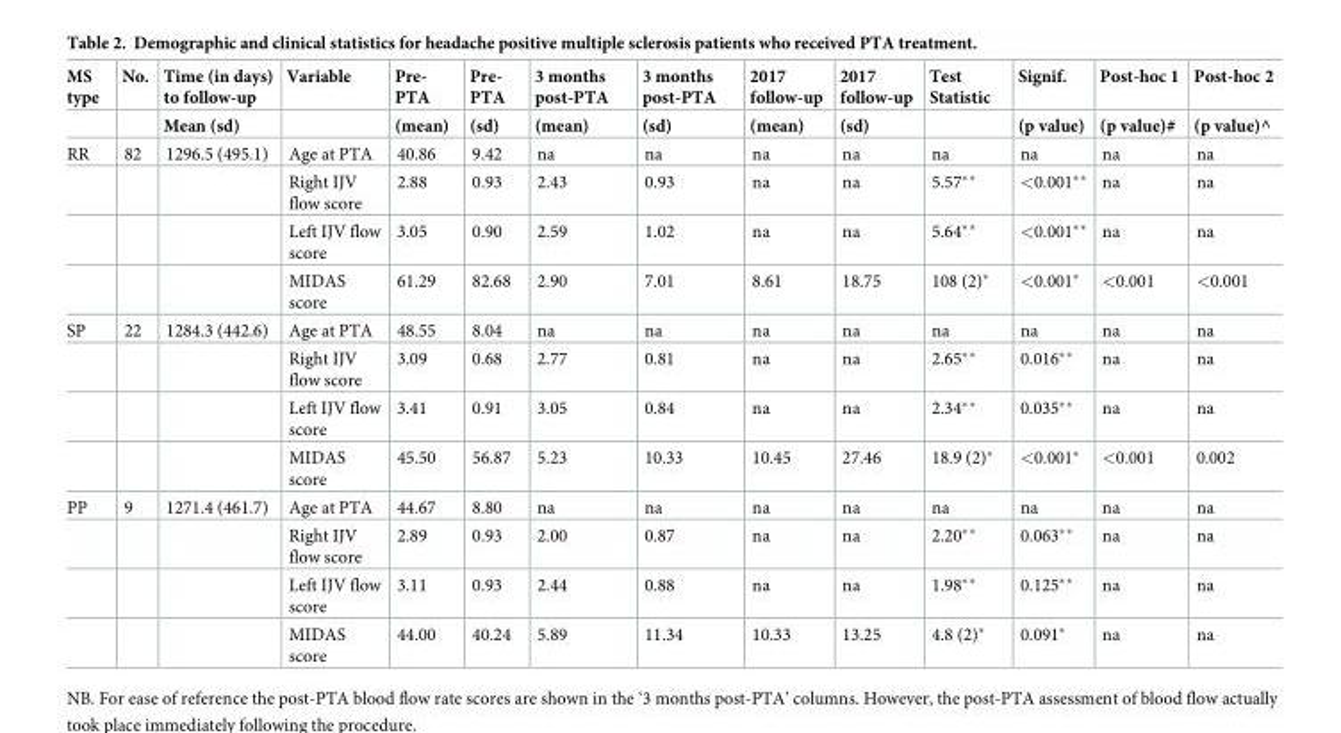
<table><thead><tr><td rowspan="2">MS type</td><td rowspan="2">No.</td><td rowspan="2">Time (in days) to follow-up Mean (sd)</td><td rowspan="2">Variable</td><td rowspan="2">Pre- PTA (mean)</td><td rowspan="2">Pre- PTA (sd)</td><td rowspan="2">3 months post-PTA (mean)</td><td rowspan="2">3 months post-PTA (sd)</td><td rowspan="2">2017 follow-up (mean)</td><td rowspan="2">2017 follow-up (sd)</td><td rowspan="2">Test Statistic</td><td rowspan="2">Signif. (p value)</td><td rowspan="2">Post-hoc 1 (p value)#</td><td rowspan="2">Post-hoc 2 (p value)^</td></tr><tr></tr></thead><tbody><tr><td rowspan="4">RR</td><td>82</td><td>1296.5 (495.1)</td><td>Age at PTA</td><td>40.86</td><td>9.42</td><td>na</td><td>na</td><td>na</td><td>na</td><td>na</td><td>na</td><td>na</td><td>na</td></tr><tr><td></td><td></td><td>Right IJV flow score</td><td>2.88</td><td>0.93</td><td>2.43</td><td>0.93</td><td>na</td><td>na</td><td>5.57**</td><td>&lt;0.001**</td><td>na</td><td>na</td></tr><tr><td></td><td></td><td>Left IJV flow score</td><td>3.05</td><td>0.90</td><td>2.59</td><td>1.02</td><td>na</td><td>na</td><td>5.64**</td><td>&lt;0.001**</td><td>na</td><td>na</td></tr><tr><td></td><td></td><td>MIDAS score</td><td>61.29</td><td>82.68</td><td>2.90</td><td>7.01</td><td>8.61</td><td>18.75</td><td>108 (2)*</td><td>&lt;0.001*</td><td>&lt;0.001</td><td>&lt;0.001</td></tr><tr><td rowspan="4">SP</td><td>22</td><td>1284.3 (442.6)</td><td>Age at PTA</td><td>48.55</td><td>8.04</td><td>na</td><td>na</td><td>na</td><td>na</td><td>na</td><td>na</td><td>na</td><td>na</td></tr><tr><td></td><td></td><td>Right IJV flow score</td><td>3.09</td><td>0.68</td><td>2.77</td><td>0.81</td><td>na</td><td>na</td><td>2.65**</td><td>0.016**</td><td>na</td><td>na</td></tr><tr><td></td><td></td><td>Left IJV flow score</td><td>3.41</td><td>0.91</td><td>3.05</td><td>0.84</td><td>na</td><td>na</td><td>2.34**</td><td>0.035**</td><td>na</td><td>na</td></tr><tr><td></td><td></td><td>MIDAS score</td><td>45.50</td><td>56.87</td><td>5.23</td><td>10.33</td><td>10.45</td><td>27.46</td><td>18.9 (2)*</td><td>&lt;0.001*</td><td>&lt;0.001</td><td>0.002</td></tr><tr><td rowspan="4">PP</td><td>9</td><td>1271.4 (461.7)</td><td>Age at PTA</td><td>44.67</td><td>8.80</td><td>na</td><td>na</td><td>na</td><td>na</td><td>na</td><td>na</td><td>na</td><td>na</td></tr><tr><td></td><td></td><td>Right IJV flow score</td><td>2.89</td><td>0.93</td><td>2.00</td><td>0.87</td><td>na</td><td>na</td><td>2.20**</td><td>0.063**</td><td>na</td><td>na</td></tr><tr><td></td><td></td><td>Left IJV flow score</td><td>3.11</td><td>0.93</td><td>2.44</td><td>0.88</td><td>na</td><td>na</td><td>1.98**</td><td>0.125**</td><td>na</td><td>na</td></tr><tr><td></td><td></td><td>MIDAS score</td><td>44.00</td><td>40.24</td><td>5.89</td><td>11.34</td><td>10.33</td><td>13.25</td><td>4.8 (2)*</td><td>0.091*</td><td>na</td><td>na</td></tr></tbody></table>